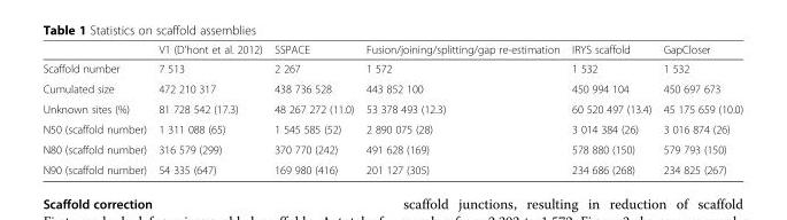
<table><thead><tr><td></td><td>V1 (D&#x27;hont et al. 2012)</td><td>SSPACE</td><td>Fusion/joining/splitting/gap re-estimation</td><td>IRYS scaffold</td><td>GapCloser</td></tr></thead><tbody><tr><td>Scaffold number</td><td>7 513</td><td>2 267</td><td>1 572</td><td>1 532</td><td>1 532</td></tr><tr><td>Cumulated size</td><td>472 210 317</td><td>438 736 528</td><td>443 852 100</td><td>450 994 104</td><td>450 697 673</td></tr><tr><td>Unknown sites (%)</td><td>81 728 542 (17.3)</td><td>48 267 272 (11.0)</td><td>53 378 493 (12.3)</td><td>60 520 497 (13.4)</td><td>45 175 659 (10.0)</td></tr><tr><td>N50 (scaffold number)</td><td>1 311 088 (65)</td><td>1 545 585 (52)</td><td>2 890 075 (28)</td><td>3 014 384 (26)</td><td>3 016 874 (26)</td></tr><tr><td>N80 (scaffold number)</td><td>316 579 (299)</td><td>370 770 (242)</td><td>491 628 (169)</td><td>578 880 (150)</td><td>579 793 (150)</td></tr><tr><td>N90 (scaffold number)</td><td>54 335 (647)</td><td>169 980 (416)</td><td>201 127 (305)</td><td>234 686 (268)</td><td>234 825 (267)</td></tr></tbody></table>